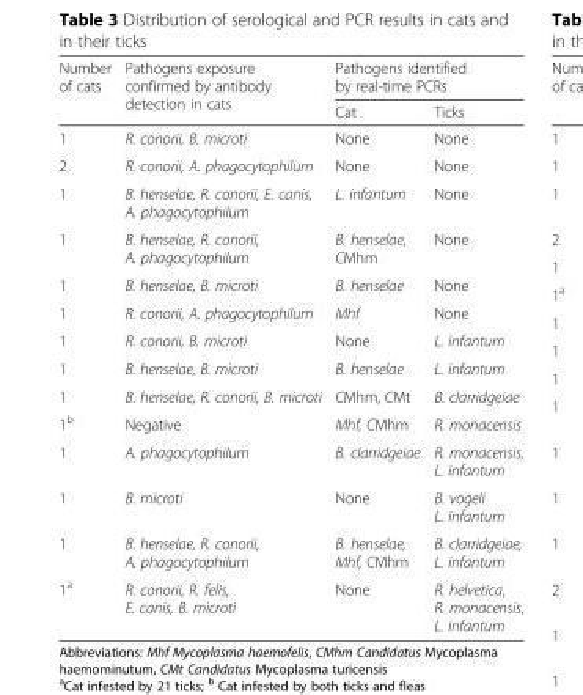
<table><thead><tr><td rowspan="2">Number of cats</td><td rowspan="2">Pathogens exposure confirmed by antibody detection in cats</td><td colspan="2">Pathogens identified by real-time PCRs</td></tr><tr><td>Cat</td><td>Ticks</td></tr></thead><tbody><tr><td>1</td><td>R. conorii, B. microti</td><td>None</td><td>None</td></tr><tr><td>2</td><td>R. conorii, A. phagocytophilum</td><td>None</td><td>None</td></tr><tr><td>1</td><td>B. henselae, R. conorii, E. canis, A. phagocytophilum</td><td>L. infantum</td><td>None</td></tr><tr><td>1</td><td>B. henselae, R. conorii, A. phagocytophilum</td><td>B. henselae, CMhm</td><td>None</td></tr><tr><td>1</td><td>B. henselae, B. microti</td><td>B. henselae</td><td>None</td></tr><tr><td>1</td><td>R. conorii, A. phagocytophilum</td><td>Mhf</td><td>None</td></tr><tr><td>1</td><td>R. conorii, B. microti</td><td>None</td><td>L. infantum</td></tr><tr><td>1</td><td>B. henselae, B. microti</td><td>B. henselae</td><td>L. infantum</td></tr><tr><td>1</td><td>B. henselae, R. conorii, B. microti</td><td>CMhm, CMt</td><td>B. clarridgeiae</td></tr><tr><td>1<sup>b</sup></td><td>Negative</td><td>Mhf, CMhm</td><td>R. monacensis</td></tr><tr><td>1</td><td>A. phagocytophilum</td><td>B. clarridgeiae</td><td>R. monacensis, L. infantum</td></tr><tr><td>1</td><td>B. microti</td><td>None</td><td>B. vogeli L. infantum</td></tr><tr><td>1</td><td>B. henselae, R. conorii, A. phagocytophilum</td><td>B. henselae, Mhf, CMhm</td><td>B. clarridgeiae, L. infantum</td></tr><tr><td>1<sup>a</sup></td><td>R. conorii, R. felis, E. canis, B. microti</td><td>None</td><td>R. helvetica, R. monacensis, L. infantum</td></tr></tbody></table>